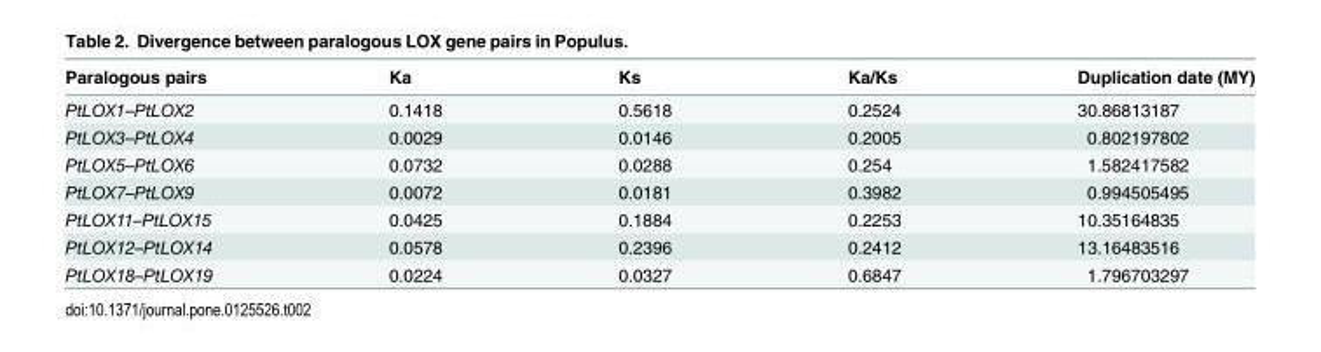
<table><thead><tr><td>Paralogous pairs</td><td>Ka</td><td>Ks</td><td>Ka/Ks</td><td>Duplication date (MY)</td></tr></thead><tbody><tr><td>PtLOX1–PtLOX2</td><td>0.1418</td><td>0.5618</td><td>0.2524</td><td>30.86813187</td></tr><tr><td>PtLOX3–PtLOX4</td><td>0.0029</td><td>0.0146</td><td>0.2005</td><td>0.802197802</td></tr><tr><td>PtLOX5–PtLOX6</td><td>0.0732</td><td>0.0288</td><td>0.254</td><td>1.582417582</td></tr><tr><td>PtLOX7–PtLOX9</td><td>0.0072</td><td>0.0181</td><td>0.3982</td><td>0.994505495</td></tr><tr><td>PtLOX11–PtLOX15</td><td>0.0425</td><td>0.1884</td><td>0.2253</td><td>10.35164835</td></tr><tr><td>PtLOX12–PtLOX14</td><td>0.0578</td><td>0.2396</td><td>0.2412</td><td>13.16483516</td></tr><tr><td>PtLOX18–PtLOX19</td><td>0.0224</td><td>0.0327</td><td>0.6847</td><td>1.796703297</td></tr></tbody></table>